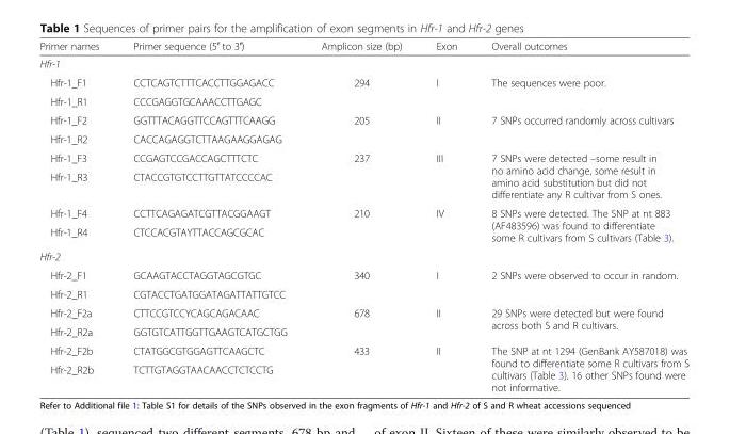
<table><thead><tr><td>Primer names</td><td>Primer sequence (5′ to 3′)</td><td>Amplicon size (bp)</td><td>Exon</td><td>Overall outcomes</td></tr></thead><tbody><tr><td colspan="5">Hfr-1</td></tr><tr><td>Hfr-1_F1</td><td>CCTCAGTCTTTCACCTTGGAGACC</td><td rowspan="2">294</td><td rowspan="2">I</td><td rowspan="2">The sequences were poor.</td></tr><tr><td>Hfr-1_R1</td><td>CCCGAGGTGCAAACCTTGAGC</td></tr><tr><td>Hfr-1_F2</td><td>GGTTTACAGGTTCCAGTTTCAAGG</td><td rowspan="2">205</td><td rowspan="2">II</td><td rowspan="2">7 SNPs occurred randomly across cultivars</td></tr><tr><td>Hfr-1_R2</td><td>CACCAGAGGTCTTAAGAAGGAGAG</td></tr><tr><td>Hfr-1_F3</td><td>CCGAGTCCGACCAGCTTTCTC</td><td rowspan="2">237</td><td rowspan="2">III</td><td rowspan="2">7 SNPs were detected –some result in no amino acid change, some result in amino acid substitution but did not differentiate any R cultivar from S ones.</td></tr><tr><td>Hfr-1_R3</td><td>CTACCGTGTCCTTGTTATCCCCAC</td></tr><tr><td>Hfr-1_F4</td><td>CCTTCAGAGATCGTTACGGAAGT</td><td rowspan="2">210</td><td rowspan="2">IV</td><td rowspan="2">8 SNPs were detected. The SNP at nt 883 (AF483596) was found to differentiate some R cultivars from S cultivars (Table 3).</td></tr><tr><td>Hfr-1_R4</td><td>CTCCACGTAYTTACCAGCGCAC</td></tr><tr><td colspan="5">Hfr-2</td></tr><tr><td>Hfr-2_F1</td><td>GCAAGTACCTAGGTAGCGTGC</td><td rowspan="2">340</td><td rowspan="2">I</td><td rowspan="2">2 SNPs were observed to occur in random.</td></tr><tr><td>Hfr-2_R1</td><td>CGTACCTGATGGATAGATTATTGTCC</td></tr><tr><td>Hfr-2_F2a</td><td>CTTCCGTCCYCAGCAGACAAC</td><td rowspan="2">678</td><td rowspan="2">II</td><td rowspan="2">29 SNPs were detected but were found across both S and R cultivars.</td></tr><tr><td>Hfr-2_R2a</td><td>GGTGTCATTGGTTGAAGTCATGCTGG</td></tr><tr><td>Hfr-2_F2b</td><td>CTATGGCGTGGAGTTCAAGCTC</td><td rowspan="2">433</td><td rowspan="2">II</td><td rowspan="2">The SNP at nt 1294 (GenBank AY587018) was found to differentiate some R cultivars from S cultivars (Table 3). 16 other SNPs found were not informative.</td></tr><tr><td>Hfr-2_R2b</td><td>TCTTGTAGGTAACAACCTCTCCTG</td></tr></tbody></table>